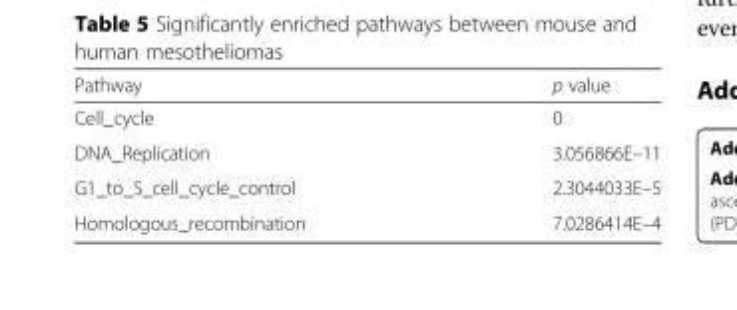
<table><thead><tr><td>Pathway</td><td>p value</td></tr></thead><tbody><tr><td>Cell_cycle</td><td>0</td></tr><tr><td>DNA_Replication</td><td>3.056866E–11</td></tr><tr><td>G1_to_S_cell_cycle_control</td><td>2.3044033E–5</td></tr><tr><td>Homologous_recombination</td><td>7.0286414E–4</td></tr></tbody></table>